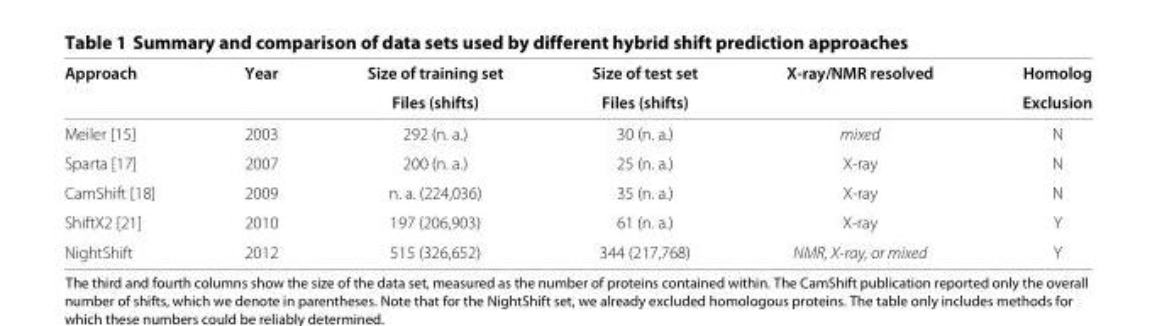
<table><thead><tr><td rowspan="2">Approach</td><td rowspan="2">Year</td><td rowspan="2">Size of training set Files (shifts)</td><td rowspan="2">Size of test set Files (shifts)</td><td rowspan="2">X-ray/NMR resolved</td><td rowspan="2">Homolog Exclusion</td></tr><tr></tr></thead><tbody><tr><td>Meiler [15]</td><td>2003</td><td>292 (n. a.)</td><td>30 (n. a.)</td><td>mixed</td><td>N</td></tr><tr><td>Sparta [17]</td><td>2007</td><td>200 (n. a.)</td><td>25 (n. a.)</td><td>X-ray</td><td>N</td></tr><tr><td>CamShift [18]</td><td>2009</td><td>n. a. (224,036)</td><td>35 (n. a.)</td><td>X-ray</td><td>N</td></tr><tr><td>ShiftX2 [21]</td><td>2010</td><td>197 (206,903)</td><td>61 (n. a.)</td><td>X-ray</td><td>Y</td></tr><tr><td>NightShift</td><td>2012</td><td>515 (326,652)</td><td>344 (217,768)</td><td>NMR, X-ray, or mixed</td><td>Y</td></tr></tbody></table>